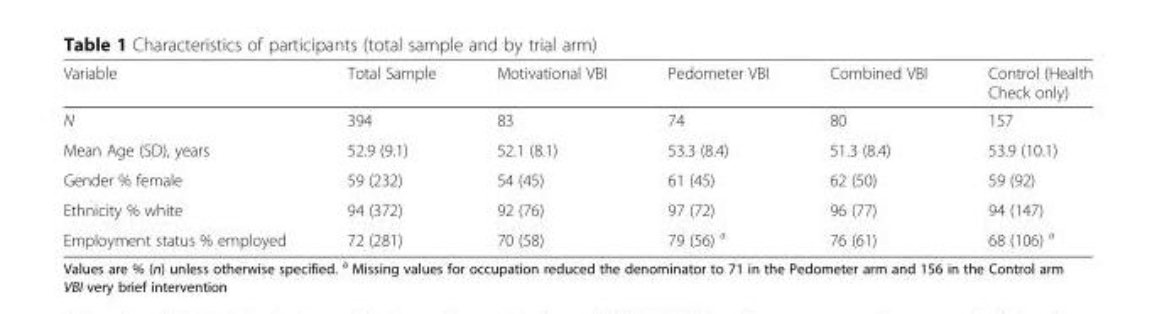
<table><thead><tr><td>Variable</td><td>Total Sample</td><td>Motivational VBI</td><td>Pedometer VBI</td><td>Combined VBI</td><td>Control (Health Check only)</td></tr></thead><tbody><tr><td>N</td><td>394</td><td>83</td><td>74</td><td>80</td><td>157</td></tr><tr><td>Mean Age (SD), years</td><td>52.9 (9.1)</td><td>52.1 (8.1)</td><td>53.3 (8.4)</td><td>51.3 (8.4)</td><td>53.9 (10.1)</td></tr><tr><td>Gender % female</td><td>59 (232)</td><td>54 (45)</td><td>61 (45)</td><td>62 (50)</td><td>59 (92)</td></tr><tr><td>Ethnicity % white</td><td>94 (372)</td><td>92 (76)</td><td>97 (72)</td><td>96 (77)</td><td>94 (147)</td></tr><tr><td>Employment status % employed</td><td>72 (281)</td><td>70 (58)</td><td>79 (56) <sup>a</sup></td><td>76 (61)</td><td>68 (106) <sup>a</sup></td></tr></tbody></table>